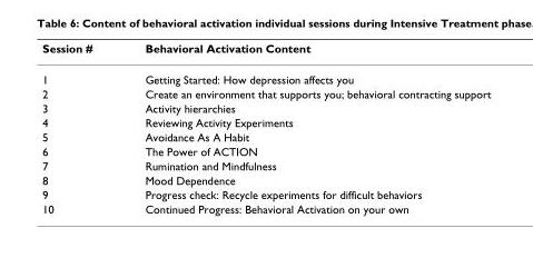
<table><thead><tr><td>Session #</td><td>Behavioral Activation Content</td></tr></thead><tbody><tr><td>1</td><td>Getting Started: How depression affects you</td></tr><tr><td>2</td><td>Create an environment that supports you; behavioral contracting support</td></tr><tr><td>3</td><td>Activity hierarchies</td></tr><tr><td>4</td><td>Reviewing Activity Experiments</td></tr><tr><td>5</td><td>Avoidance As A Habit</td></tr><tr><td>6</td><td>The Power of ACTION</td></tr><tr><td>7</td><td>Rumination and Mindfulness</td></tr><tr><td>8</td><td>Mood Dependence</td></tr><tr><td>9</td><td>Progress check: Recycle experiments for difficult behaviors</td></tr><tr><td>10</td><td>Continued Progress: Behavioral Activation on your own</td></tr></tbody></table>